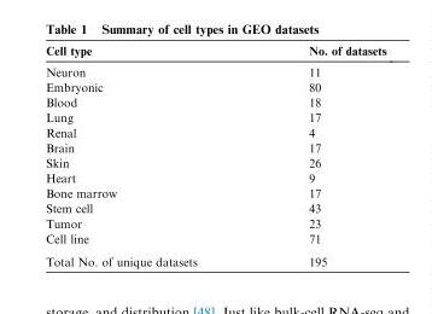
<table><thead><tr><td>Cell type</td><td>No. of datasets</td></tr></thead><tbody><tr><td>Neuron</td><td>11</td></tr><tr><td>Embryonic</td><td>80</td></tr><tr><td>Blood</td><td>18</td></tr><tr><td>Lung</td><td>17</td></tr><tr><td>Renal</td><td>4</td></tr><tr><td>Brain</td><td>17</td></tr><tr><td>Skin</td><td>26</td></tr><tr><td>Heart</td><td>9</td></tr><tr><td>Bone marrow</td><td>17</td></tr><tr><td>Stem cell</td><td>43</td></tr><tr><td>Tumor</td><td>23</td></tr><tr><td>Cell line</td><td>71</td></tr><tr><td>Total No. of unique datasets</td><td>195</td></tr></tbody></table>